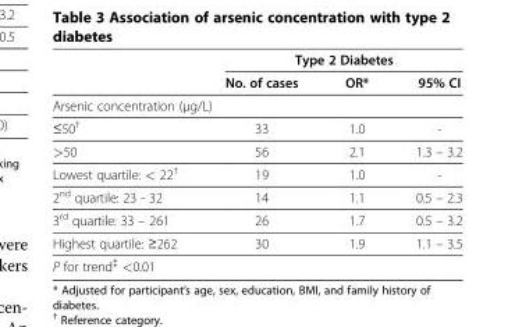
<table><thead><tr><td rowspan="2"></td><td colspan="3">Type 2 Diabetes</td></tr><tr><td>No. of cases</td><td>OR*</td><td>95% CI</td></tr></thead><tbody><tr><td colspan="4">Arsenic concentration (μg/L)</td></tr><tr><td>≤50<sup>†</sup></td><td>33</td><td>1.0</td><td>-</td></tr><tr><td>&gt;50</td><td>56</td><td>2.1</td><td>1.3 – 3.2</td></tr><tr><td>Lowest quartile: &lt; 22<sup>†</sup></td><td>19</td><td>1.0</td><td>-</td></tr><tr><td>2<sup>nd</sup> quartile: 23 - 32</td><td>14</td><td>1.1</td><td>0.5 – 2.3</td></tr><tr><td>3<sup>rd</sup> quartile: 33 – 261</td><td>26</td><td>1.7</td><td>0.5 – 3.2</td></tr><tr><td>Highest quartile: ≥262</td><td>30</td><td>1.9</td><td>1.1 – 3.5</td></tr><tr><td colspan="4">P for trend<sup>‡</sup> &lt;0.01</td></tr></tbody></table>